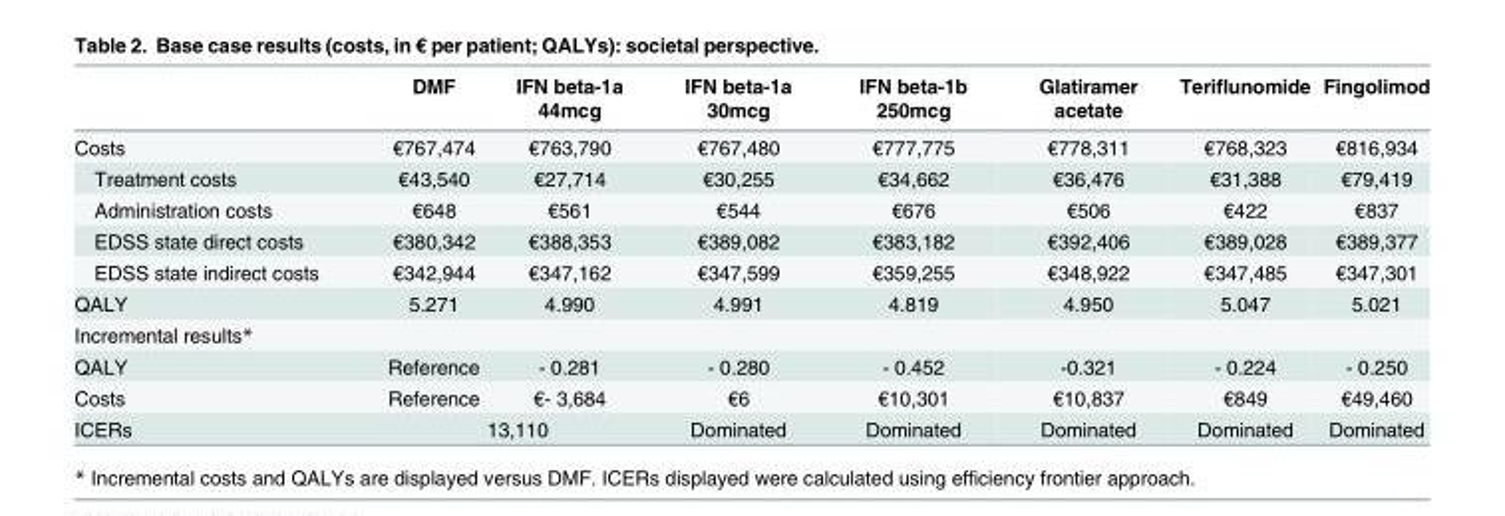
<table><thead><tr><td></td><td>DMF</td><td>IFN beta-1a 44mcg</td><td>IFN beta-1a 30mcg</td><td>IFN beta-1b 250mcg</td><td>Glatiramer acetate</td><td>Teriflunomide</td><td>Fingolimod</td></tr></thead><tbody><tr><td>Costs</td><td>€767,474</td><td>€763,790</td><td>€767,480</td><td>€777,775</td><td>€778,311</td><td>€768,323</td><td>€816,934</td></tr><tr><td>Treatment costs</td><td>€43,540</td><td>€27,714</td><td>€30,255</td><td>€34,662</td><td>€36,476</td><td>€31,388</td><td>€79,419</td></tr><tr><td>Administration costs</td><td>€648</td><td>€561</td><td>€544</td><td>€676</td><td>€506</td><td>€422</td><td>€837</td></tr><tr><td>EDSS state direct costs</td><td>€380,342</td><td>€388,353</td><td>€389,082</td><td>€383,182</td><td>€392,406</td><td>€389,028</td><td>€389,377</td></tr><tr><td>EDSS state indirect costs</td><td>€342,944</td><td>€347,162</td><td>€347,599</td><td>€359,255</td><td>€348,922</td><td>€347,485</td><td>€347,301</td></tr><tr><td>QALY</td><td>5.271</td><td>4.990</td><td>4.991</td><td>4.819</td><td>4.950</td><td>5.047</td><td>5.021</td></tr><tr><td colspan="8">Incremental results*</td></tr><tr><td>QALY</td><td>Reference</td><td>- 0.281</td><td>- 0.280</td><td>- 0.452</td><td>-0.321</td><td>- 0.224</td><td>- 0.250</td></tr><tr><td>Costs</td><td>Reference</td><td>€- 3,684</td><td>€6</td><td>€10,301</td><td>€10,837</td><td>€849</td><td>€49,460</td></tr><tr><td>ICERs</td><td colspan="2">13,110</td><td>Dominated</td><td>Dominated</td><td>Dominated</td><td>Dominated</td><td>Dominated</td></tr></tbody></table>